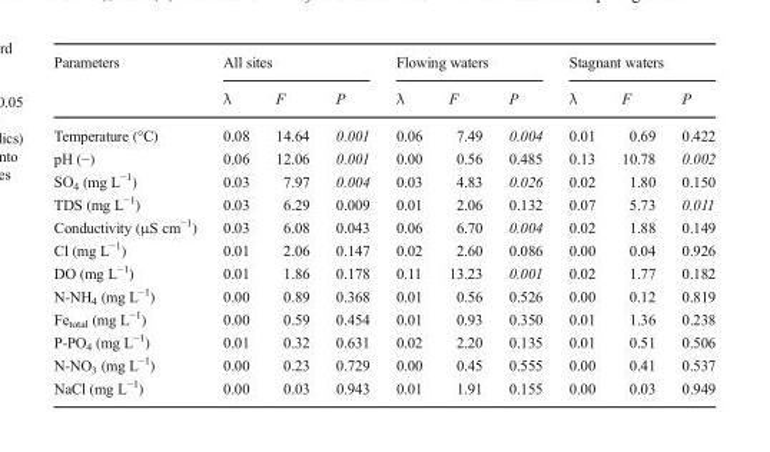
<table><thead><tr><td rowspan="2">Parameters</td><td colspan="3">All sites</td><td colspan="3">Flowing waters</td><td colspan="3">Stagnant waters</td></tr><tr><td>λ</td><td>F</td><td>P</td><td>λ</td><td>F</td><td>P</td><td>λ</td><td>F</td><td>P</td></tr></thead><tbody><tr><td>Temperature (°C)</td><td>0.08</td><td>14.64</td><td>0.001</td><td>0.06</td><td>7.49</td><td>0.004</td><td>0.01</td><td>0.69</td><td>0.422</td></tr><tr><td>pH (−)</td><td>0.06</td><td>12.06</td><td>0.001</td><td>0.00</td><td>0.56</td><td>0.485</td><td>0.13</td><td>10.78</td><td>0.002</td></tr><tr><td>SO<sub>4</sub> (mg L<sup>−1</sup>)</td><td>0.03</td><td>7.97</td><td>0.004</td><td>0.03</td><td>4.83</td><td>0.026</td><td>0.02</td><td>1.80</td><td>0.150</td></tr><tr><td>TDS (mg L<sup>−1</sup>)</td><td>0.03</td><td>6.29</td><td>0.009</td><td>0.01</td><td>2.06</td><td>0.132</td><td>0.07</td><td>5.73</td><td>0.011</td></tr><tr><td>Conductivity (μS cm<sup>−1</sup>)</td><td>0.03</td><td>6.08</td><td>0.043</td><td>0.06</td><td>6.70</td><td>0.004</td><td>0.02</td><td>1.88</td><td>0.149</td></tr><tr><td>Cl (mg L<sup>−1</sup>)</td><td>0.01</td><td>2.06</td><td>0.147</td><td>0.02</td><td>2.60</td><td>0.086</td><td>0.00</td><td>0.04</td><td>0.926</td></tr><tr><td>DO (mg L<sup>−1</sup>)</td><td>0.01</td><td>1.86</td><td>0.178</td><td>0.11</td><td>13.23</td><td>0.001</td><td>0.02</td><td>1.77</td><td>0.182</td></tr><tr><td>N-NH<sub>4</sub> (mg L<sup>−1</sup>)</td><td>0.00</td><td>0.89</td><td>0.368</td><td>0.01</td><td>0.56</td><td>0.526</td><td>0.00</td><td>0.12</td><td>0.819</td></tr><tr><td>Fe<sub>total</sub> (mg L<sup>−1</sup>)</td><td>0.00</td><td>0.59</td><td>0.454</td><td>0.01</td><td>0.93</td><td>0.350</td><td>0.01</td><td>1.36</td><td>0.238</td></tr><tr><td>P-PO<sub>4</sub> (mg L<sup>−1</sup>)</td><td>0.01</td><td>0.32</td><td>0.631</td><td>0.02</td><td>2.20</td><td>0.135</td><td>0.01</td><td>0.51</td><td>0.506</td></tr><tr><td>N-NO<sub>3</sub> (mg L<sup>−1</sup>)</td><td>0.00</td><td>0.23</td><td>0.729</td><td>0.00</td><td>0.45</td><td>0.555</td><td>0.00</td><td>0.41</td><td>0.537</td></tr><tr><td>NaCl (mg L<sup>−1</sup>)</td><td>0.00</td><td>0.03</td><td>0.943</td><td>0.01</td><td>1.91</td><td>0.155</td><td>0.00</td><td>0.03</td><td>0.949</td></tr></tbody></table>